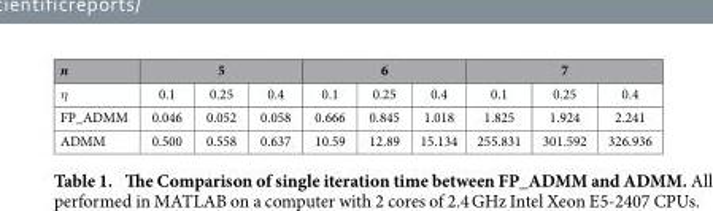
<table><thead><tr><td rowspan="2">n η</td><td colspan="3">5</td><td colspan="3">6</td><td colspan="3">7</td></tr><tr><td>0.1</td><td>0.25</td><td>0.4</td><td>0.1</td><td>0.25</td><td>0.4</td><td>0.1</td><td>0.25</td><td>0.4</td></tr></thead><tbody><tr><td>FP_ADMM</td><td>0.046</td><td>0.052</td><td>0.058</td><td>0.666</td><td>0.845</td><td>1.018</td><td>1.825</td><td>1.924</td><td>2.241</td></tr><tr><td>ADMM</td><td>0.500</td><td>0.558</td><td>0.637</td><td>10.59</td><td>12.89</td><td>15.134</td><td>255.831</td><td>301.592</td><td>326.936</td></tr></tbody></table>